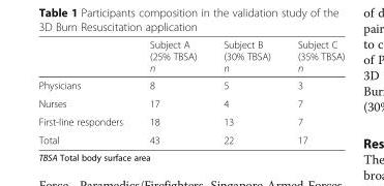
<table><thead><tr><td></td><td>Subject A (25% TBSA) n</td><td>Subject B (30% TBSA) n</td><td>Subject C (35% TBSA) n</td></tr></thead><tbody><tr><td>Physicians</td><td>8</td><td>5</td><td>3</td></tr><tr><td>Nurses</td><td>17</td><td>4</td><td>7</td></tr><tr><td>First-line responders</td><td>18</td><td>13</td><td>7</td></tr><tr><td>Total</td><td>43</td><td>22</td><td>17</td></tr></tbody></table>